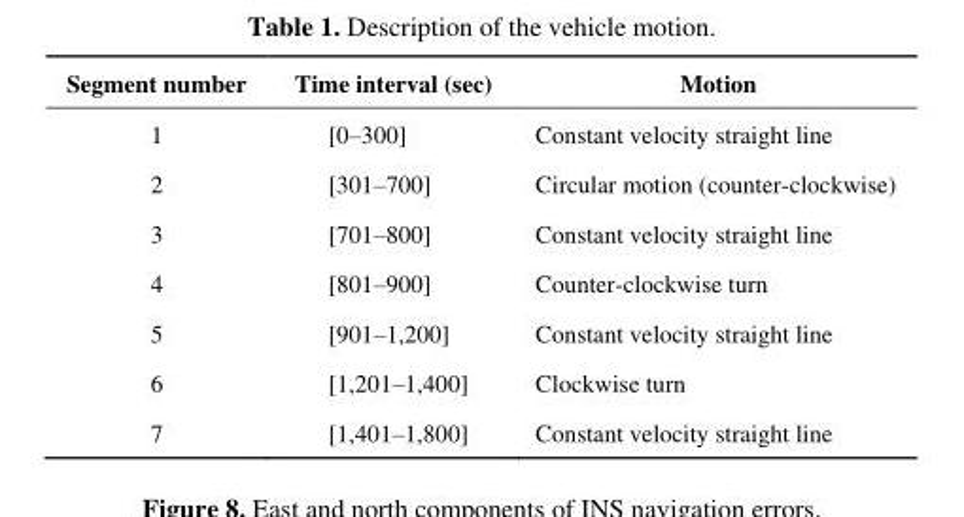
<table><thead><tr><td>Segment number</td><td>Time interval (sec)</td><td>Motion</td></tr></thead><tbody><tr><td>1</td><td>[0–300]</td><td>Constant velocity straight line</td></tr><tr><td>2</td><td>[301–700]</td><td>Circular motion (counter-clockwise)</td></tr><tr><td>3</td><td>[701–800]</td><td>Constant velocity straight line</td></tr><tr><td>4</td><td>[801–900]</td><td>Counter-clockwise turn</td></tr><tr><td>5</td><td>[901–1,200]</td><td>Constant velocity straight line</td></tr><tr><td>6</td><td>[1,201–1,400]</td><td>Clockwise turn</td></tr><tr><td>7</td><td>[1,401–1,800]</td><td>Constant velocity straight line</td></tr></tbody></table>